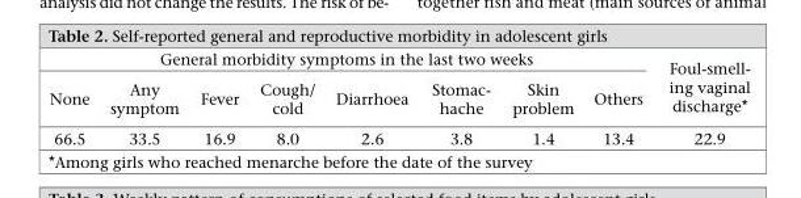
<table><thead><tr><td colspan="8">General morbidity symptoms in the last two weeks</td><td rowspan="2">Foul-smell- ing vaginal discharge*</td></tr><tr><td>None</td><td>Any symptom</td><td>Fever</td><td>Cough/ cold</td><td>Diarrhoea</td><td>Stomac- hache</td><td>Skin problem</td><td>Others</td></tr></thead><tbody><tr><td>66.5</td><td>33.5</td><td>16.9</td><td>8.0</td><td>2.6</td><td>3.8</td><td>1.4</td><td>13.4</td><td>22.9</td></tr></tbody></table>